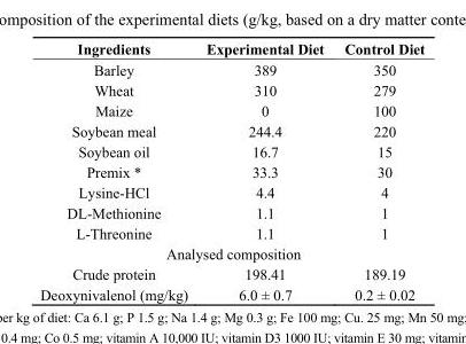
<table><thead><tr><td>Ingredients</td><td>Experimental Diet</td><td>Control Diet</td></tr></thead><tbody><tr><td>Barley</td><td>389</td><td>350</td></tr><tr><td>Wheat</td><td>310</td><td>279</td></tr><tr><td>Maize</td><td>0</td><td>100</td></tr><tr><td>Soybean meal</td><td>244.4</td><td>220</td></tr><tr><td>Soybean oil</td><td>16.7</td><td>15</td></tr><tr><td>Premix *</td><td>33.3</td><td>30</td></tr><tr><td>Lysine-HCl</td><td>4.4</td><td>4</td></tr><tr><td>DL-Methionine</td><td>1.1</td><td>1</td></tr><tr><td>L-Threonine</td><td>1.1</td><td>1</td></tr><tr><td colspan="3">Analysed composition</td></tr><tr><td>Crude protein</td><td>198.41</td><td>189.19</td></tr><tr><td>Deoxynivalenol (mg/kg)</td><td>6.0 ± 0.7</td><td>0.2 ± 0.02</td></tr></tbody></table>